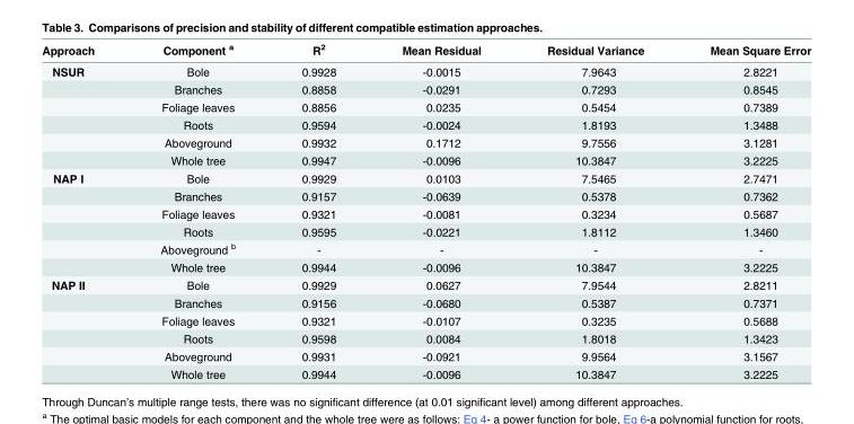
<table><thead><tr><td>Approach</td><td>Component <sup>a</sup></td><td>R<sup>2</sup></td><td>Mean Residual</td><td>Residual Variance</td><td>Mean Square Error</td></tr></thead><tbody><tr><td rowspan="6">NSUR</td><td>Bole</td><td>0.9928</td><td>-0.0015</td><td>7.9643</td><td>2.8221</td></tr><tr><td>Branches</td><td>0.8858</td><td>-0.0291</td><td>0.7293</td><td>0.8545</td></tr><tr><td>Foliage leaves</td><td>0.8856</td><td>0.0235</td><td>0.5454</td><td>0.7389</td></tr><tr><td>Roots</td><td>0.9594</td><td>-0.0024</td><td>1.8193</td><td>1.3488</td></tr><tr><td>Aboveground</td><td>0.9932</td><td>0.1712</td><td>9.7556</td><td>3.1281</td></tr><tr><td>Whole tree</td><td>0.9947</td><td>-0.0096</td><td>10.3847</td><td>3.2225</td></tr><tr><td rowspan="6">NAP I</td><td>Bole</td><td>0.9929</td><td>0.0103</td><td>7.5465</td><td>2.7471</td></tr><tr><td>Branches</td><td>0.9157</td><td>-0.0639</td><td>0.5378</td><td>0.7362</td></tr><tr><td>Foliage leaves</td><td>0.9321</td><td>-0.0081</td><td>0.3234</td><td>0.5687</td></tr><tr><td>Roots</td><td>0.9595</td><td>-0.0221</td><td>1.8112</td><td>1.3460</td></tr><tr><td>Aboveground <sup>b</sup></td><td>-</td><td>-</td><td>-</td><td>-</td></tr><tr><td>Whole tree</td><td>0.9944</td><td>-0.0096</td><td>10.3847</td><td>3.2225</td></tr><tr><td rowspan="6">NAP II</td><td>Bole</td><td>0.9929</td><td>0.0627</td><td>7.9544</td><td>2.8211</td></tr><tr><td>Branches</td><td>0.9156</td><td>-0.0680</td><td>0.5387</td><td>0.7371</td></tr><tr><td>Foliage leaves</td><td>0.9321</td><td>-0.0107</td><td>0.3235</td><td>0.5688</td></tr><tr><td>Roots</td><td>0.9598</td><td>0.0084</td><td>1.8018</td><td>1.3423</td></tr><tr><td>Aboveground</td><td>0.9931</td><td>-0.0921</td><td>9.9564</td><td>3.1567</td></tr><tr><td>Whole tree</td><td>0.9944</td><td>-0.0096</td><td>10.3847</td><td>3.2225</td></tr></tbody></table>